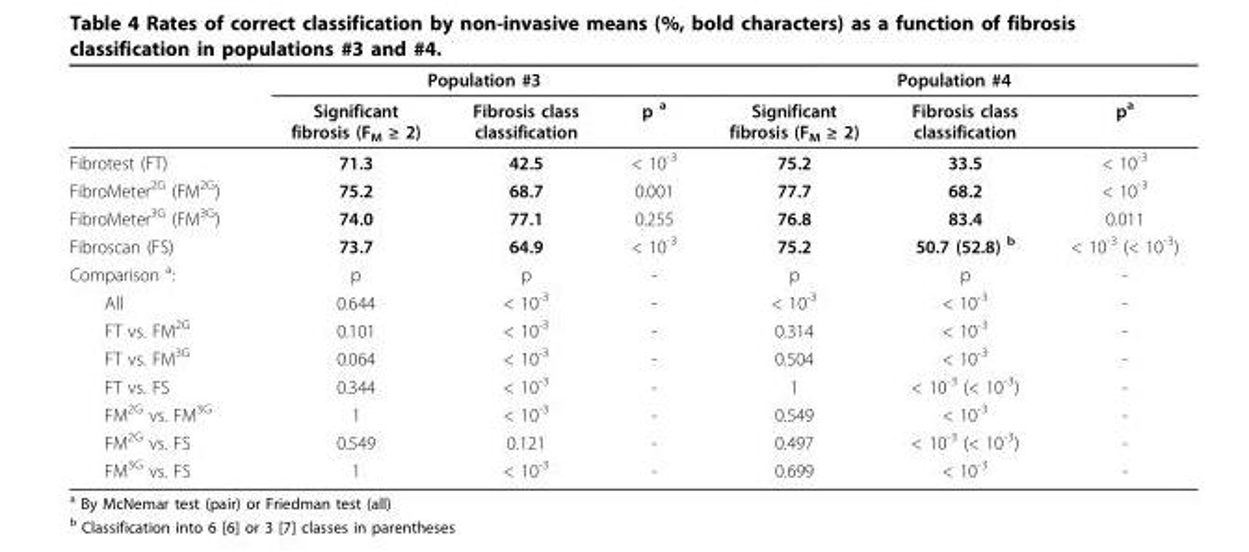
<table><thead><tr><td rowspan="2"></td><td colspan="3">Population #3</td><td colspan="3">Population #4</td></tr><tr><td>Significant fibrosis (F<sub>M</sub> ≥ 2)</td><td>Fibrosis class classification</td><td>p <sup>a</sup></td><td>Significant fibrosis (F<sub>M</sub> ≥ 2)</td><td>Fibrosis class classification</td><td>p<sup>a</sup></td></tr></thead><tbody><tr><td>Fibrotest (FT)</td><td>71.3</td><td>42.5</td><td>&lt; 10<sup>-3</sup></td><td>75.2</td><td>33.5</td><td>&lt; 10<sup>-3</sup></td></tr><tr><td>FibroMeter<sup>2G</sup> (FM<sup>2G</sup>)</td><td>75.2</td><td>68.7</td><td>0.001</td><td>77.7</td><td>68.2</td><td>&lt; 10<sup>-3</sup></td></tr><tr><td>FibroMeter<sup>3G</sup> (FM<sup>3G</sup>)</td><td>74.0</td><td>77.1</td><td>0.255</td><td>76.8</td><td>83.4</td><td>0.011</td></tr><tr><td>Fibroscan (FS)</td><td>73.7</td><td>64.9</td><td>&lt; 10<sup>-3</sup></td><td>75.2</td><td>50.7 (52.8) <sup>b</sup></td><td>&lt; 10<sup>-3</sup> (&lt; 10<sup>-3</sup>)</td></tr><tr><td>Comparison <sup>a</sup>:</td><td>p</td><td>p</td><td>-</td><td>p</td><td>p</td><td>-</td></tr><tr><td>All</td><td>0.644</td><td>&lt; 10<sup>-3</sup></td><td>-</td><td>&lt; 10<sup>-3</sup></td><td>&lt; 10<sup>-3</sup></td><td>-</td></tr><tr><td>FT vs. FM<sup>2G</sup></td><td>0.101</td><td>&lt; 10<sup>-3</sup></td><td>-</td><td>0.314</td><td>&lt; 10<sup>-3</sup></td><td>-</td></tr><tr><td>FT vs. FM<sup>3G</sup></td><td>0.064</td><td>&lt; 10<sup>-3</sup></td><td>-</td><td>0.504</td><td>&lt; 10<sup>-3</sup></td><td>-</td></tr><tr><td>FT vs. FS</td><td>0.344</td><td>&lt; 10<sup>-3</sup></td><td>-</td><td>1</td><td>&lt; 10<sup>-3</sup> (&lt; 10<sup>-3</sup>)</td><td>-</td></tr><tr><td>FM<sup>2G</sup> vs. FM<sup>3G</sup></td><td>1</td><td>&lt; 10<sup>-3</sup></td><td>-</td><td>0.549</td><td>&lt; 10<sup>-3</sup></td><td>-</td></tr><tr><td>FM<sup>2G</sup> vs. FS</td><td>0.549</td><td>0.121</td><td>-</td><td>0.497</td><td>&lt; 10<sup>-3</sup> (&lt; 10<sup>-3</sup>)</td><td>-</td></tr><tr><td>FM<sup>3G</sup> vs. FS</td><td>1</td><td>&lt; 10<sup>-3</sup></td><td>-</td><td>0.699</td><td>&lt; 10<sup>-3</sup></td><td>-</td></tr></tbody></table>